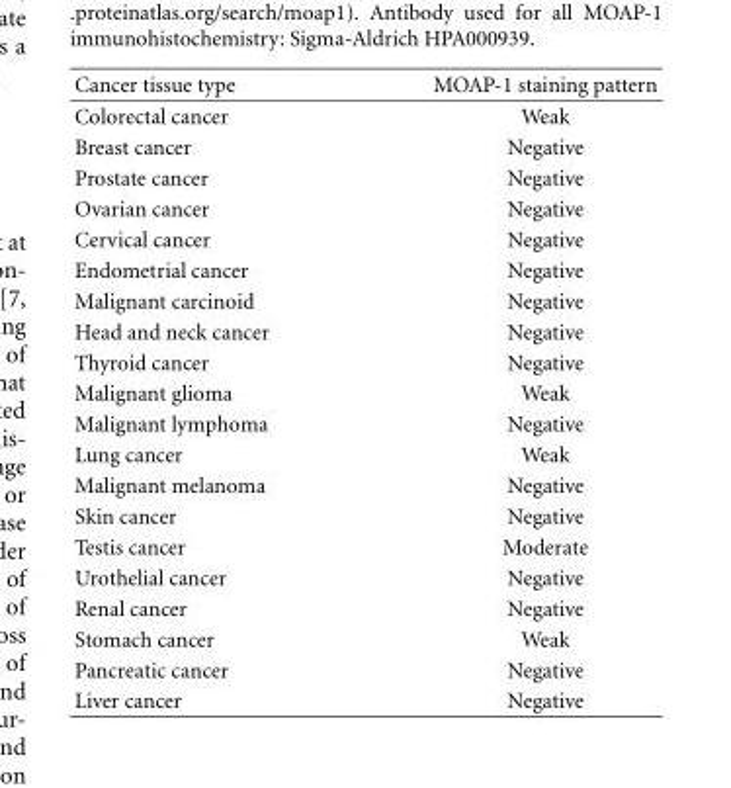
<table><thead><tr><td>Cancer tissue type</td><td>MOAP-1 staining pattern</td></tr></thead><tbody><tr><td>Colorectal cancer</td><td>Weak</td></tr><tr><td>Breast cancer</td><td>Negative</td></tr><tr><td>Prostate cancer</td><td>Negative</td></tr><tr><td>Ovarian cancer</td><td>Negative</td></tr><tr><td>Cervical cancer</td><td>Negative</td></tr><tr><td>Endometrial cancer</td><td>Negative</td></tr><tr><td>Malignant carcinoid</td><td>Negative</td></tr><tr><td>Head and neck cancer</td><td>Negative</td></tr><tr><td>Thyroid cancer</td><td>Negative</td></tr><tr><td>Malignant glioma</td><td>Weak</td></tr><tr><td>Malignant lymphoma</td><td>Negative</td></tr><tr><td>Lung cancer</td><td>Weak</td></tr><tr><td>Malignant melanoma</td><td>Negative</td></tr><tr><td>Skin cancer</td><td>Negative</td></tr><tr><td>Testis cancer</td><td>Moderate</td></tr><tr><td>Urothelial cancer</td><td>Negative</td></tr><tr><td>Renal cancer</td><td>Negative</td></tr><tr><td>Stomach cancer</td><td>Weak</td></tr><tr><td>Pancreatic cancer</td><td>Negative</td></tr><tr><td>Liver cancer</td><td>Negative</td></tr></tbody></table>